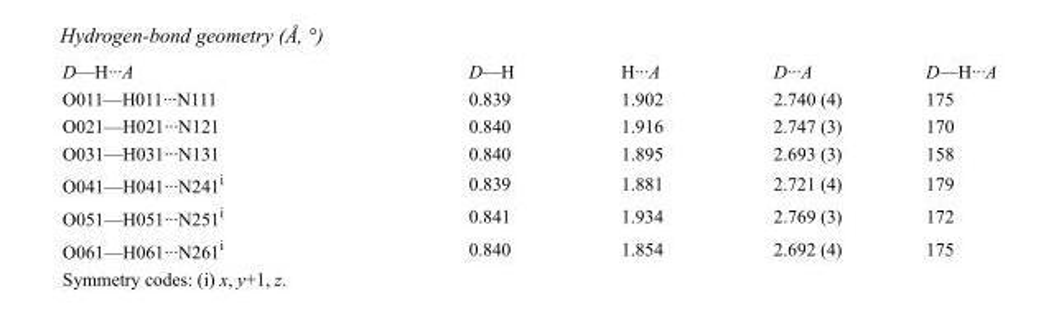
<table><tbody><tr><td>D—H···A</td><td>D—H</td><td>H···A</td><td>D···A</td><td>D—H···A</td></tr><tr><td>O011—H011···N111</td><td>0.839</td><td>1.902</td><td>2.740 (4)</td><td>175</td></tr><tr><td>O021—H021···N121</td><td>0.840</td><td>1.916</td><td>2.747 (3)</td><td>170</td></tr><tr><td>O031—H031···N131</td><td>0.840</td><td>1.895</td><td>2.693 (3)</td><td>158</td></tr><tr><td>O041—H041···N241<sup>i</sup></td><td>0.839</td><td>1.881</td><td>2.721 (4)</td><td>179</td></tr><tr><td>O051—H051···N251<sup>i</sup></td><td>0.841</td><td>1.934</td><td>2.769 (3)</td><td>172</td></tr><tr><td>O061—H061···N261<sup>i</sup></td><td>0.840</td><td>1.854</td><td>2.692 (4)</td><td>175</td></tr></tbody></table>